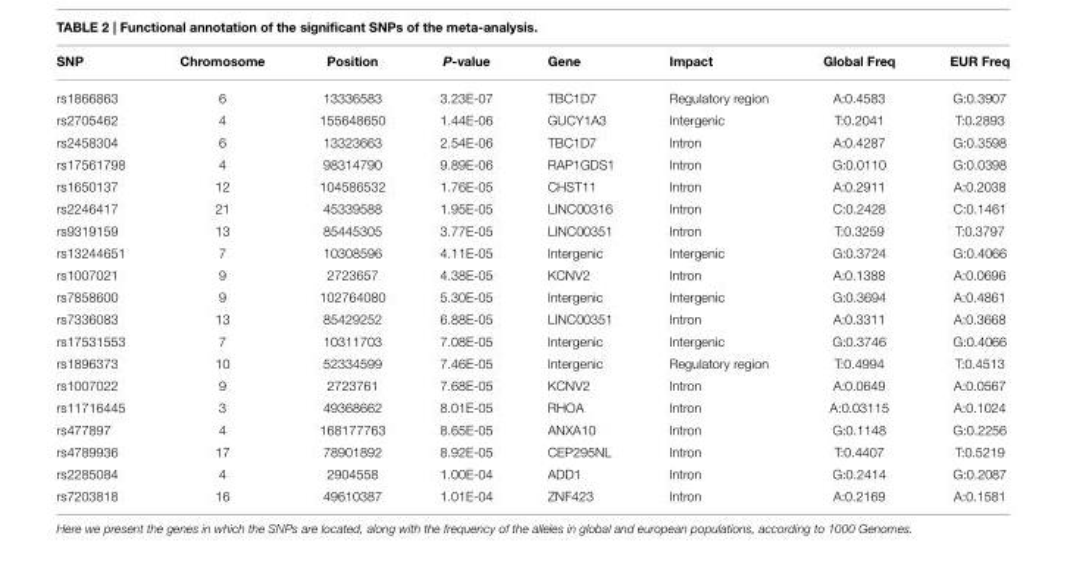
<table><thead><tr><td>SNP</td><td>Chromosome</td><td>Position</td><td>P-value</td><td>Gene</td><td>Impact</td><td>Global Freq</td><td>EUR Freq</td></tr></thead><tbody><tr><td>rs1866863</td><td>6</td><td>13336583</td><td>3.23E-07</td><td>TBC1D7</td><td>Regulatory region</td><td>A:0.4583</td><td>G:0.3907</td></tr><tr><td>rs2705462</td><td>4</td><td>155648650</td><td>1.44E-06</td><td>GUCY1A3</td><td>Intergenic</td><td>T:0.2041</td><td>T:0.2893</td></tr><tr><td>rs2458304</td><td>6</td><td>13323663</td><td>2.54E-06</td><td>TBC1D7</td><td>Intron</td><td>A:0.4287</td><td>G:0.3598</td></tr><tr><td>rs17561798</td><td>4</td><td>98314790</td><td>9.89E-06</td><td>RAP1GDS1</td><td>Intron</td><td>G:0.0110</td><td>G:0.0398</td></tr><tr><td>rs1650137</td><td>12</td><td>104586532</td><td>1.76E-05</td><td>CHST11</td><td>Intron</td><td>A:0.2911</td><td>A:0.2038</td></tr><tr><td>rs2246417</td><td>21</td><td>45339588</td><td>1.95E-05</td><td>LINC00316</td><td>Intron</td><td>C:0.2428</td><td>C:0.1461</td></tr><tr><td>rs9319159</td><td>13</td><td>85445305</td><td>3.77E-05</td><td>LINC00351</td><td>Intron</td><td>T:0.3259</td><td>T:0.3797</td></tr><tr><td>rs13244651</td><td>7</td><td>10308596</td><td>4.11E-05</td><td>Intergenic</td><td>Intergenic</td><td>G:0.3724</td><td>G:0.4066</td></tr><tr><td>rs1007021</td><td>9</td><td>2723657</td><td>4.38E-05</td><td>KCNV2</td><td>Intron</td><td>A:0.1388</td><td>A:0.0696</td></tr><tr><td>rs7858600</td><td>9</td><td>102764080</td><td>5.30E-05</td><td>Intergenic</td><td>Intergenic</td><td>G:0.3694</td><td>A:0.4861</td></tr><tr><td>rs7336083</td><td>13</td><td>85429252</td><td>6.88E-05</td><td>LINC00351</td><td>Intron</td><td>A:0.3311</td><td>A:0.3668</td></tr><tr><td>rs17531553</td><td>7</td><td>10311703</td><td>7.08E-05</td><td>Intergenic</td><td>Intergenic</td><td>G:0.3746</td><td>G:0.4066</td></tr><tr><td>rs1896373</td><td>10</td><td>52334599</td><td>7.46E-05</td><td>Intergenic</td><td>Regulatory region</td><td>T:0.4994</td><td>T:0.4513</td></tr><tr><td>rs1007022</td><td>9</td><td>2723761</td><td>7.68E-05</td><td>KCNV2</td><td>Intron</td><td>A:0.0649</td><td>A:0.0567</td></tr><tr><td>rs11716445</td><td>3</td><td>49368662</td><td>8.01E-05</td><td>RHOA</td><td>Intron</td><td>A:0.03115</td><td>A:0.1024</td></tr><tr><td>rs477897</td><td>4</td><td>168177763</td><td>8.65E-05</td><td>ANXA10</td><td>Intron</td><td>G:0.1148</td><td>G:0.2256</td></tr><tr><td>rs4789936</td><td>17</td><td>78901892</td><td>8.92E-05</td><td>CEP295NL</td><td>Intron</td><td>T:0.4407</td><td>T:0.5219</td></tr><tr><td>rs2285084</td><td>4</td><td>2904558</td><td>1.00E-04</td><td>ADD1</td><td>Intron</td><td>G:0.2414</td><td>G:0.2087</td></tr><tr><td>rs7203818</td><td>16</td><td>49610387</td><td>1.01E-04</td><td>ZNF423</td><td>Intron</td><td>A:0.2169</td><td>A:0.1581</td></tr></tbody></table>